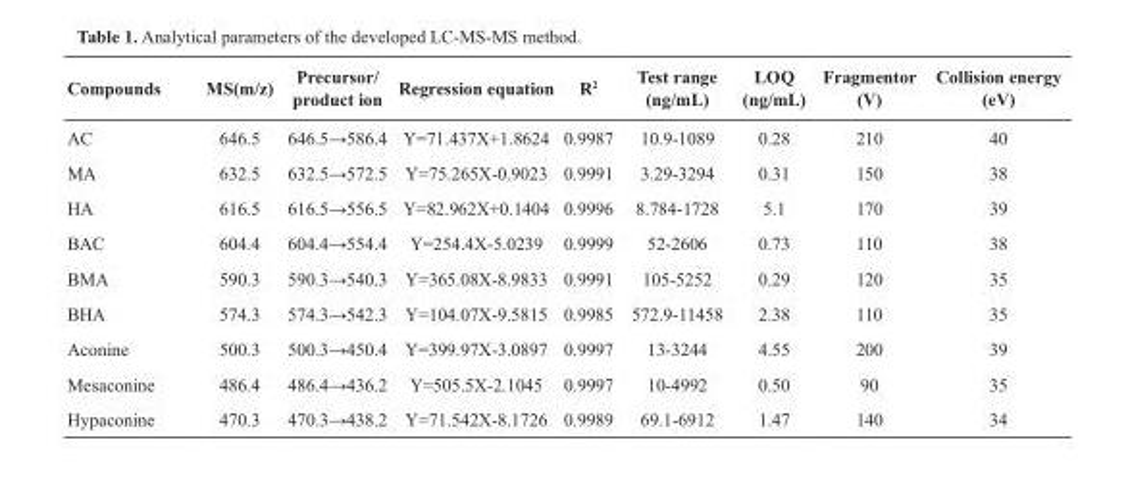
<table><thead><tr><td>Compounds</td><td>MS(m/z)</td><td>Precursor/ product ion</td><td>Regression equation</td><td>R<sup>2</sup></td><td>Test range (ng/mL)</td><td>LOQ (ng/mL)</td><td>Fragmentor (V)</td><td>Collision energy (eV)</td></tr></thead><tbody><tr><td>AC</td><td>646.5</td><td>646.5→586.4</td><td>Y=71.437X+1.8624</td><td>0.9987</td><td>10.9-1089</td><td>0.28</td><td>210</td><td>40</td></tr><tr><td>MA</td><td>632.5</td><td>632.5→572.5</td><td>Y=75.265X-0.9023</td><td>0.9991</td><td>3.29-3294</td><td>0.31</td><td>150</td><td>38</td></tr><tr><td>HA</td><td>616.5</td><td>616.5→556.5</td><td>Y=82.962X+0.1404</td><td>0.9996</td><td>8.784-1728</td><td>5.1</td><td>170</td><td>39</td></tr><tr><td>BAC</td><td>604.4</td><td>604.4→554.4</td><td>Y=254.4X-5.0239</td><td>0.9999</td><td>52-2606</td><td>0.73</td><td>110</td><td>38</td></tr><tr><td>BMA</td><td>590.3</td><td>590.3→540.3</td><td>Y=365.08X-8.9833</td><td>0.9991</td><td>105-5252</td><td>0.29</td><td>120</td><td>35</td></tr><tr><td>BHA</td><td>574.3</td><td>574.3→542.3</td><td>Y=104.07X-9.5815</td><td>0.9985</td><td>572.9-11458</td><td>2.38</td><td>110</td><td>35</td></tr><tr><td>Aconine</td><td>500.3</td><td>500.3→450.4</td><td>Y=399.97X-3.0897</td><td>0.9997</td><td>13-3244</td><td>4.55</td><td>200</td><td>39</td></tr><tr><td>Mesaconine</td><td>486.4</td><td>486.4→436.2</td><td>Y=505.5X-2.1045</td><td>0.9997</td><td>10-4992</td><td>0.50</td><td>90</td><td>35</td></tr><tr><td>Hypaconine</td><td>470.3</td><td>470.3→438.2</td><td>Y=71.542X-8.1726</td><td>0.9989</td><td>69.1-6912</td><td>1.47</td><td>140</td><td>34</td></tr></tbody></table>